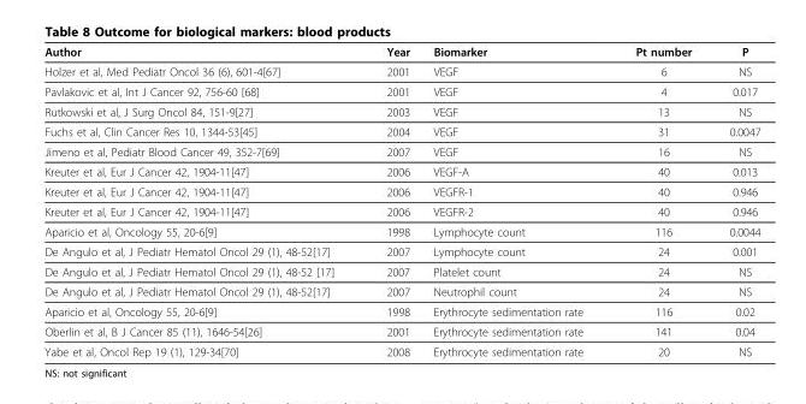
<table><thead><tr><td>Author</td><td>Year</td><td>Biomarker</td><td>Pt number</td><td>P</td></tr></thead><tbody><tr><td>Holzer et al, Med Pediatr Oncol 36 (6), 601-4[67]</td><td>2001</td><td>VEGF</td><td>6</td><td>NS</td></tr><tr><td>Pavlakovic et al, Int J Cancer 92, 756-60 [68]</td><td>2001</td><td>VEGF</td><td>4</td><td>0.017</td></tr><tr><td>Rutkowski et al, J Surg Oncol 84, 151-9[27]</td><td>2003</td><td>VEGF</td><td>13</td><td>NS</td></tr><tr><td>Fuchs et al, Clin Cancer Res 10, 1344-53[45]</td><td>2004</td><td>VEGF</td><td>31</td><td>0.0047</td></tr><tr><td>Jimeno et al, Pediatr Blood Cancer 49, 352-7[69]</td><td>2007</td><td>VEGF</td><td>16</td><td>NS</td></tr><tr><td>Kreuter et al, Eur J Cancer 42, 1904-11[47]</td><td>2006</td><td>VEGF-A</td><td>40</td><td>0.013</td></tr><tr><td>Kreuter et al, Eur J Cancer 42, 1904-11[47]</td><td>2006</td><td>VEGFR-1</td><td>40</td><td>0.946</td></tr><tr><td>Kreuter et al, Eur J Cancer 42, 1904-11[47]</td><td>2006</td><td>VEGFR-2</td><td>40</td><td>0.946</td></tr><tr><td>Aparicio et al, Oncology 55, 20-6[9]</td><td>1998</td><td>Lymphocyte count</td><td>116</td><td>0.0044</td></tr><tr><td>De Angulo et al, J Pediatr Hematol Oncol 29 (1), 48-52[17]</td><td>2007</td><td>Lymphocyte count</td><td>24</td><td>0.001</td></tr><tr><td>De Angulo et al, J Pediatr Hematol Oncol 29 (1), 48-52 [17]</td><td>2007</td><td>Platelet count</td><td>24</td><td>NS</td></tr><tr><td>De Angulo et al, J Pediatr Hematol Oncol 29 (1), 48-52[17]</td><td>2007</td><td>Neutrophil count</td><td>24</td><td>NS</td></tr><tr><td>Aparicio et al, Oncology 55, 20-6[9]</td><td>1998</td><td>Erythrocyte sedimentation rate</td><td>116</td><td>0.02</td></tr><tr><td>Oberlin et al, B J Cancer 85 (11), 1646-54[26]</td><td>2001</td><td>Erythrocyte sedimentation rate</td><td>141</td><td>0.04</td></tr><tr><td>Yabe et al, Oncol Rep 19 (1), 129-34[70]</td><td>2008</td><td>Erythrocyte sedimentation rate</td><td>20</td><td>NS</td></tr></tbody></table>